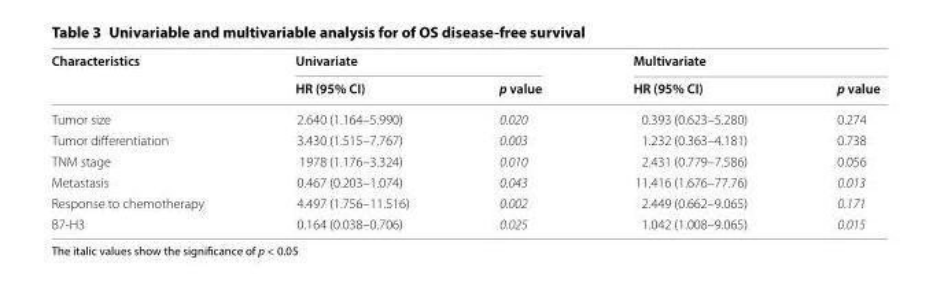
<table><thead><tr><td rowspan="2">Characteristics</td><td colspan="2">Univariate</td><td colspan="2">Multivariate</td></tr><tr><td>HR (95% CI)</td><td>p value</td><td>HR (95% CI)</td><td>p value</td></tr></thead><tbody><tr><td>Tumor size</td><td>2.640 (1.164–5.990)</td><td>0.020</td><td>0.393 (0.623–5.280)</td><td>0.274</td></tr><tr><td>Tumor differentiation</td><td>3.430 (1.515–7.767)</td><td>0.003</td><td>1.232 (0.363–4.181)</td><td>0.738</td></tr><tr><td>TNM stage</td><td>1978 (1.176–3.324)</td><td>0.010</td><td>2.431 (0.779–7.586)</td><td>0.056</td></tr><tr><td>Metastasis</td><td>0.467 (0.203–1.074)</td><td>0.043</td><td>11.416 (1.676–77.76)</td><td>0.013</td></tr><tr><td>Response to chemotherapy</td><td>4.497 (1.756–11.516)</td><td>0.002</td><td>2.449 (0.662–9.065)</td><td>0.171</td></tr><tr><td>B7‑H3</td><td>0.164 (0.038–0.706)</td><td>0.025</td><td>1.042 (1.008–9.065)</td><td>0.015</td></tr></tbody></table>